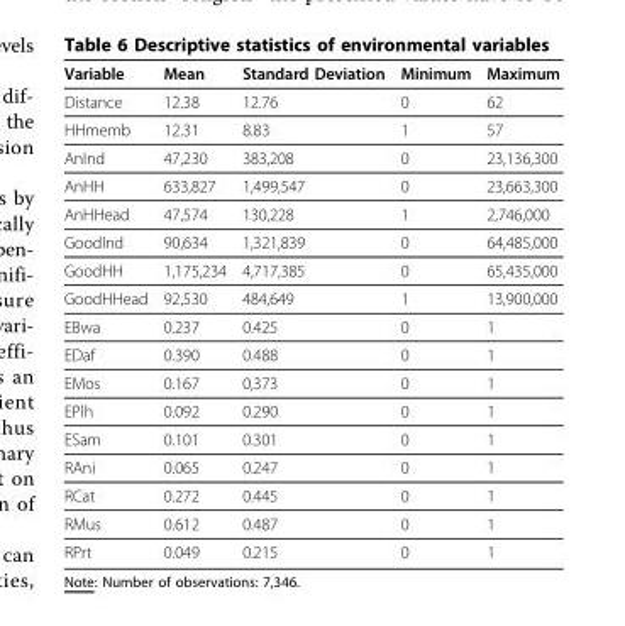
<table><thead><tr><td>Variable</td><td>Mean</td><td>Standard Deviation</td><td>Minimum</td><td>Maximum</td></tr></thead><tbody><tr><td>Distance</td><td>12.38</td><td>12.76</td><td>0</td><td>62</td></tr><tr><td>HHmemb</td><td>12.31</td><td>8.83</td><td>1</td><td>57</td></tr><tr><td>AnInd</td><td>47,230</td><td>383,208</td><td>0</td><td>23,136,300</td></tr><tr><td>AnHH</td><td>633,827</td><td>1,499,547</td><td>0</td><td>23,663,300</td></tr><tr><td>AnHHead</td><td>47,574</td><td>130,228</td><td>1</td><td>2,746,000</td></tr><tr><td>GoodInd</td><td>90,634</td><td>1,321,839</td><td>0</td><td>64,485,000</td></tr><tr><td>GoodHH</td><td>1,175,234</td><td>4,717,385</td><td>0</td><td>65,435,000</td></tr><tr><td>GoodHHead</td><td>92,530</td><td>484,649</td><td>1</td><td>13,900,000</td></tr><tr><td>EBwa</td><td>0.237</td><td>0.425</td><td>0</td><td>1</td></tr><tr><td>EDaf</td><td>0.390</td><td>0.488</td><td>0</td><td>1</td></tr><tr><td>EMos</td><td>0.167</td><td>0,373</td><td>0</td><td>1</td></tr><tr><td>EPlh</td><td>0.092</td><td>0.290</td><td>0</td><td>1</td></tr><tr><td>ESam</td><td>0.101</td><td>0.301</td><td>0</td><td>1</td></tr><tr><td>RAni</td><td>0.065</td><td>0.247</td><td>0</td><td>1</td></tr><tr><td>RCat</td><td>0.272</td><td>0.445</td><td>0</td><td>1</td></tr><tr><td>RMus</td><td>0.612</td><td>0.487</td><td>0</td><td>1</td></tr><tr><td>RPrt</td><td>0.049</td><td>0.215</td><td>0</td><td>1</td></tr></tbody></table>